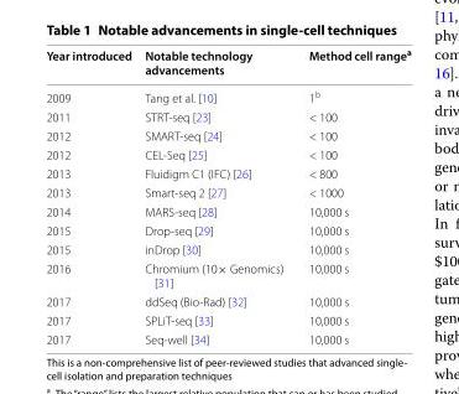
<table><thead><tr><td>Year introduced</td><td>Notable technology advancements</td><td>Method cell range<sup>a</sup></td></tr></thead><tbody><tr><td>2009</td><td>Tang et al. [10]</td><td>1<sup>b</sup></td></tr><tr><td>2011</td><td>STRT-seq [23]</td><td>&lt; 100</td></tr><tr><td>2012</td><td>SMART-seq [24]</td><td>&lt; 100</td></tr><tr><td>2012</td><td>CEL-Seq [25]</td><td>&lt; 100</td></tr><tr><td>2013</td><td>Fluidigm C1 (IFC) [26]</td><td>&lt; 800</td></tr><tr><td>2013</td><td>Smart-seq 2 [27]</td><td>&lt; 1000</td></tr><tr><td>2014</td><td>MARS-seq [28]</td><td>10,000 s</td></tr><tr><td>2015</td><td>Drop-seq [29]</td><td>10,000 s</td></tr><tr><td>2015</td><td>inDrop [30]</td><td>10,000 s</td></tr><tr><td>2016</td><td>Chromium (10× Genomics) [31]</td><td>10,000 s</td></tr><tr><td>2017</td><td>ddSeq (Bio-Rad) [32]</td><td>10,000 s</td></tr><tr><td>2017</td><td>SPLiT-seq [33]</td><td>10,000 s</td></tr><tr><td>2017</td><td>Seq-well [34]</td><td>10,000 s</td></tr></tbody></table>